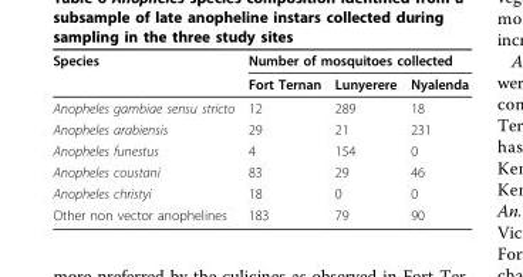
<table><thead><tr><td rowspan="2">Species</td><td colspan="3">Number of mosquitoes collected</td></tr><tr><td>Fort Ternan</td><td>Lunyerere</td><td>Nyalenda</td></tr></thead><tbody><tr><td>Anopheles gambiae sensu stricto</td><td>12</td><td>289</td><td>18</td></tr><tr><td>Anopheles arabiensis</td><td>29</td><td>21</td><td>231</td></tr><tr><td>Anopheles funestus</td><td>4</td><td>154</td><td>0</td></tr><tr><td>Anopheles coustani</td><td>83</td><td>29</td><td>46</td></tr><tr><td>Anopheles christyi</td><td>18</td><td>0</td><td>0</td></tr><tr><td>Other non vector anophelines</td><td>183</td><td>79</td><td>90</td></tr></tbody></table>